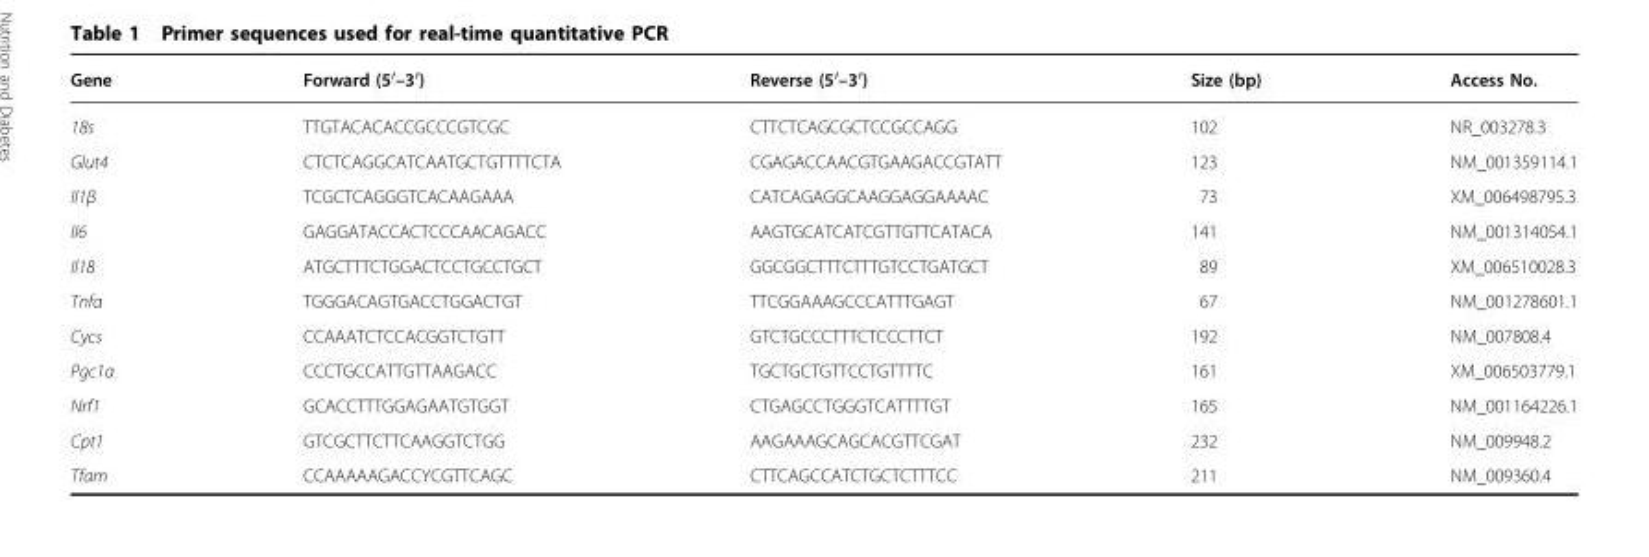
<table><thead><tr><td>Gene</td><td>Forward (5′–3′)</td><td>Reverse (5′–3′)</td><td>Size (bp)</td><td>Access No.</td></tr></thead><tbody><tr><td>18s</td><td>TTGTACACACCGCCCGTCGC</td><td>CTTCTCAGCGCTCCGCCAGG</td><td>102</td><td>NR_003278.3</td></tr><tr><td>Glut4</td><td>CTCTCAGGCATCAATGCTGTTTTCTA</td><td>CGAGACCAACGTGAAGACCGTATT</td><td>123</td><td>NM_001359114.1</td></tr><tr><td>Il1β</td><td>TCGCTCAGGGTCACAAGAAA</td><td>CATCAGAGGCAAGGAGGAAAAC</td><td>73</td><td>XM_006498795.3</td></tr><tr><td>Il6</td><td>GAGGATACCACTCCCAACAGACC</td><td>AAGTGCATCATCGTTGTTCATACA</td><td>141</td><td>NM_001314054.1</td></tr><tr><td>Il18</td><td>ATGCTTTCTGGACTCCTGCCTGCT</td><td>GGCGGCTTTCTTTGTCCTGATGCT</td><td>89</td><td>XM_006510028.3</td></tr><tr><td>Tnfα</td><td>TGGGACAGTGACCTGGACTGT</td><td>TTCGGAAAGCCCATTTGAGT</td><td>67</td><td>NM_001278601.1</td></tr><tr><td>Cycs</td><td>CCAAATCTCCACGGTCTGTT</td><td>GTCTGCCCTTTCTCCCTTCT</td><td>192</td><td>NM_007808.4</td></tr><tr><td>Pgc1α</td><td>CCCTGCCATTGTTAAGACC</td><td>TGCTGCTGTTCCTGTTTTC</td><td>161</td><td>XM_006503779.1</td></tr><tr><td>Nrf1</td><td>GCACCTTTGGAGAATGTGGT</td><td>CTGAGCCTGGGTCATTTTGT</td><td>165</td><td>NM_001164226.1</td></tr><tr><td>Cpt1</td><td>GTCGCTTCTTCAAGGTCTGG</td><td>AAGAAAGCAGCACGTTCGAT</td><td>232</td><td>NM_009948.2</td></tr><tr><td>Tfam</td><td>CCAAAAAGACCYCGTTCAGC</td><td>CTTCAGCCATCTGCTCTTTCC</td><td>211</td><td>NM_009360.4</td></tr></tbody></table>